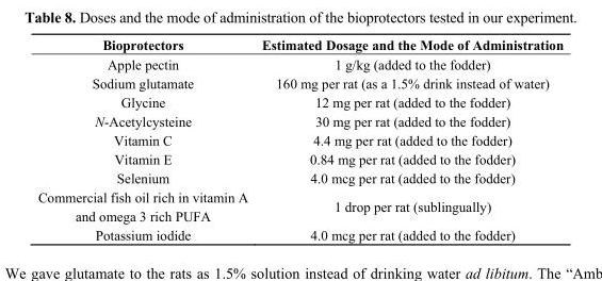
<table><thead><tr><td>Bioprotectors</td><td>Estimated Dosage and the Mode of Administration</td></tr></thead><tbody><tr><td>Apple pectin</td><td>1 g/kg (added to the fodder)</td></tr><tr><td>Sodium glutamate</td><td>160 mg per rat (as a 1.5% drink instead of water)</td></tr><tr><td>Glycine</td><td>12 mg per rat (added to the fodder)</td></tr><tr><td>N-Acetylcysteine</td><td>30 mg per rat (added to the fodder)</td></tr><tr><td>Vitamin C</td><td>4.4 mg per rat (added to the fodder)</td></tr><tr><td>Vitamin E</td><td>0.84 mg per rat (added to the fodder)</td></tr><tr><td>Selenium</td><td>4.0 mcg per rat (added to the fodder)</td></tr><tr><td>Commercial fish oil rich in vitamin A and omega 3 rich PUFA</td><td>1 drop per rat (sublingually)</td></tr><tr><td>Potassium iodide</td><td>4.0 mcg per rat (added to the fodder)</td></tr></tbody></table>